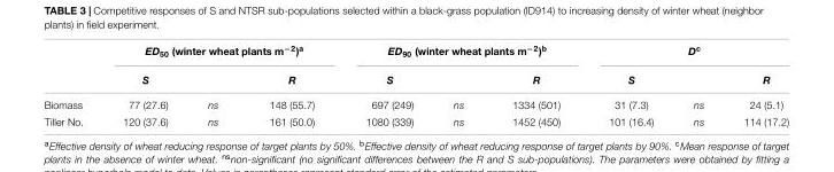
<table><thead><tr><td rowspan="2"></td><td colspan="3">ED<sub>50</sub> (winter wheat plants m<sup>−2</sup>)<sup>a</sup></td><td colspan="3">ED<sub>90</sub> (winter wheat plants m<sup>−2</sup>)<sup>b</sup></td><td colspan="3">D<sup>c</sup></td></tr><tr><td>S</td><td></td><td>R</td><td>S</td><td></td><td>R</td><td>S</td><td></td><td>R</td></tr></thead><tbody><tr><td>Biomass</td><td>77 (27.6)</td><td>ns</td><td>148 (55.7)</td><td>697 (249)</td><td>ns</td><td>1334 (501)</td><td>31 (7.3)</td><td>ns</td><td>24 (5.1)</td></tr><tr><td>Tiller No.</td><td>120 (37.6)</td><td>ns</td><td>161 (50.0)</td><td>1080 (339)</td><td>ns</td><td>1452 (450)</td><td>101 (16.4)</td><td>ns</td><td>114 (17.2)</td></tr></tbody></table>